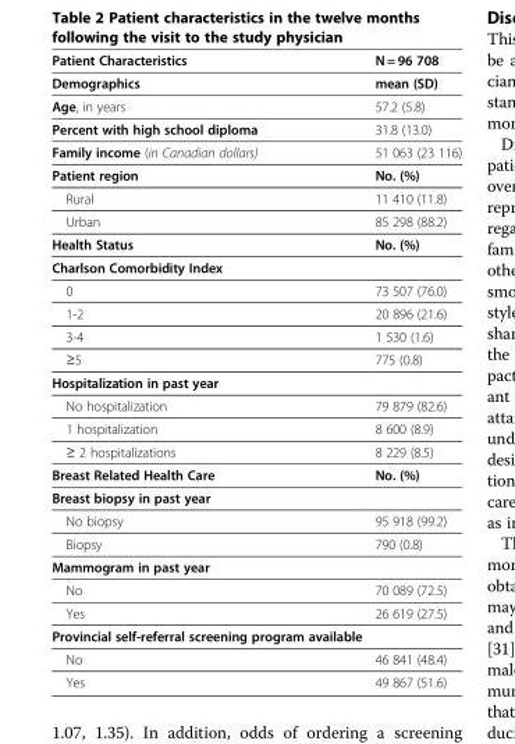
<table><thead><tr><td>Patient Characteristics</td><td>N = 96 708</td></tr></thead><tbody><tr><td>Demographics</td><td>mean (SD)</td></tr><tr><td>Age, in years</td><td>57.2 (5.8)</td></tr><tr><td>Percent with high school diploma</td><td>31.8 (13.0)</td></tr><tr><td>Family income (in Canadian dollars)</td><td>51 063 (23 116)</td></tr><tr><td>Patient region</td><td>No. (%)</td></tr><tr><td>Rural</td><td>11 410 (11.8)</td></tr><tr><td>Urban</td><td>85 298 (88.2)</td></tr><tr><td>Health Status</td><td>No. (%)</td></tr><tr><td colspan="2">Charlson Comorbidity Index</td></tr><tr><td>0</td><td>73 507 (76.0)</td></tr><tr><td>1-2</td><td>20 896 (21.6)</td></tr><tr><td>3-4</td><td>1 530 (1.6)</td></tr><tr><td>≥5</td><td>775 (0.8)</td></tr><tr><td colspan="2">Hospitalization in past year</td></tr><tr><td>No hospitalization</td><td>79 879 (82.6)</td></tr><tr><td>1 hospitalization</td><td>8 600 (8.9)</td></tr><tr><td>≥ 2 hospitalizations</td><td>8 229 (8.5)</td></tr><tr><td>Breast Related Health Care</td><td>No. (%)</td></tr><tr><td colspan="2">Breast biopsy in past year</td></tr><tr><td>No biopsy</td><td>95 918 (99.2)</td></tr><tr><td>Biopsy</td><td>790 (0.8)</td></tr><tr><td colspan="2">Mammogram in past year</td></tr><tr><td>No</td><td>70 089 (72.5)</td></tr><tr><td>Yes</td><td>26 619 (27.5)</td></tr><tr><td colspan="2">Provincial self-referral screening program available</td></tr><tr><td>No</td><td>46 841 (48.4)</td></tr><tr><td>Yes</td><td>49 867 (51.6)</td></tr></tbody></table>